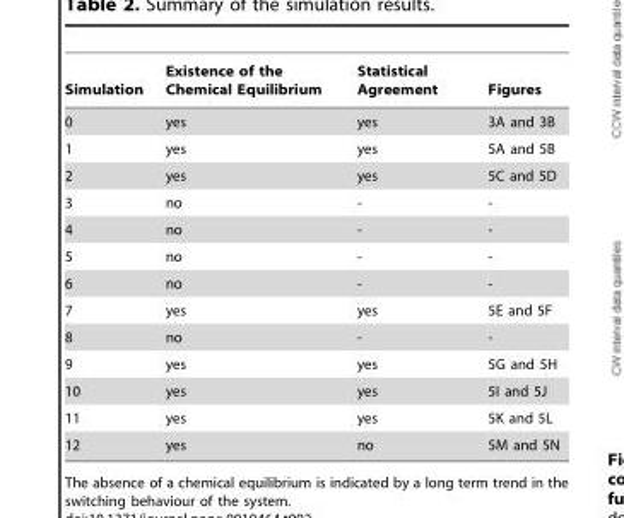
<table><thead><tr><td>Simulation</td><td>Existence of the Chemical Equilibrium</td><td>Statistical Agreement</td><td>Figures</td></tr></thead><tbody><tr><td>0</td><td>yes</td><td>yes</td><td>3A and 3B</td></tr><tr><td>1</td><td>yes</td><td>yes</td><td>5A and 5B</td></tr><tr><td>2</td><td>yes</td><td>yes</td><td>5C and 5D</td></tr><tr><td>3</td><td>no</td><td>-</td><td>-</td></tr><tr><td>4</td><td>no</td><td>-</td><td>-</td></tr><tr><td>5</td><td>no</td><td>-</td><td>-</td></tr><tr><td>6</td><td>no</td><td>-</td><td>-</td></tr><tr><td>7</td><td>yes</td><td>yes</td><td>5E and 5F</td></tr><tr><td>8</td><td>no</td><td>-</td><td>-</td></tr><tr><td>9</td><td>yes</td><td>yes</td><td>5G and 5H</td></tr><tr><td>10</td><td>yes</td><td>yes</td><td>5I and 5J</td></tr><tr><td>11</td><td>yes</td><td>yes</td><td>5K and 5L</td></tr><tr><td>12</td><td>yes</td><td>no</td><td>5M and 5N</td></tr></tbody></table>